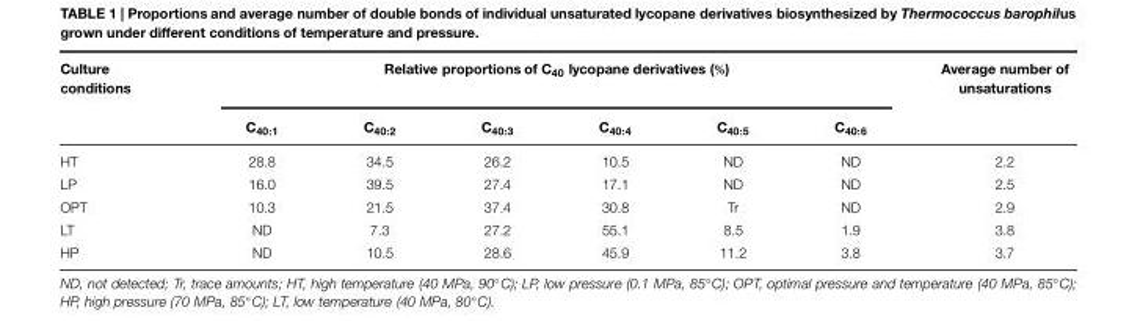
<table><thead><tr><td rowspan="2">Culture conditions</td><td colspan="6">Relative proportions of C<sub>40</sub> lycopane derivatives (%)</td><td rowspan="2">Average number of unsaturations</td></tr><tr><td>C<sub>40:1</sub></td><td>C<sub>40:2</sub></td><td>C<sub>40:3</sub></td><td>C<sub>40:4</sub></td><td>C<sub>40:5</sub></td><td>C<sub>40:6</sub></td></tr></thead><tbody><tr><td>HT</td><td>28.8</td><td>34.5</td><td>26.2</td><td>10.5</td><td>ND</td><td>ND</td><td>2.2</td></tr><tr><td>LP</td><td>16.0</td><td>39.5</td><td>27.4</td><td>17.1</td><td>ND</td><td>ND</td><td>2.5</td></tr><tr><td>OPT</td><td>10.3</td><td>21.5</td><td>37.4</td><td>30.8</td><td>Tr</td><td>ND</td><td>2.9</td></tr><tr><td>LT</td><td>ND</td><td>7.3</td><td>27.2</td><td>55.1</td><td>8.5</td><td>1.9</td><td>3.8</td></tr><tr><td>HP</td><td>ND</td><td>10.5</td><td>28.6</td><td>45.9</td><td>11.2</td><td>3.8</td><td>3.7</td></tr></tbody></table>